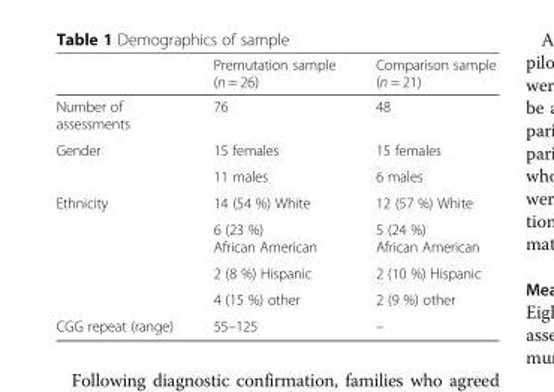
<table><thead><tr><td></td><td>Premutation sample (n = 26)</td><td>Comparison sample (n = 21)</td></tr></thead><tbody><tr><td>Number of assessments</td><td>76</td><td>48</td></tr><tr><td rowspan="2">Gender</td><td>15 females</td><td>15 females</td></tr><tr><td>11 males</td><td>6 males</td></tr><tr><td rowspan="4">Ethnicity</td><td>14 (54 %) White</td><td>12 (57 %) White</td></tr><tr><td>6 (23 %) African American</td><td>5 (24 %) African American</td></tr><tr><td>2 (8 %) Hispanic</td><td>2 (10 %) Hispanic</td></tr><tr><td>4 (15 %) other</td><td>2 (9 %) other</td></tr><tr><td>CGG repeat (range)</td><td>55–125</td><td>–</td></tr></tbody></table>